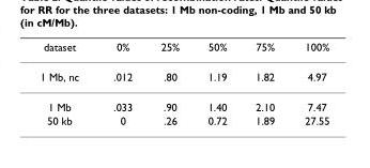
<table><thead><tr><td>dataset</td><td>0%</td><td>25%</td><td>50%</td><td>75%</td><td>100%</td></tr></thead><tbody><tr><td>1 Mb, nc</td><td>.012</td><td>.80</td><td>1.19</td><td>1.82</td><td>4.97</td></tr><tr><td>1 Mb</td><td>.033</td><td>.90</td><td>1.40</td><td>2.10</td><td>7.47</td></tr><tr><td>50 kb</td><td>0</td><td>.26</td><td>0.72</td><td>1.89</td><td>27.55</td></tr></tbody></table>